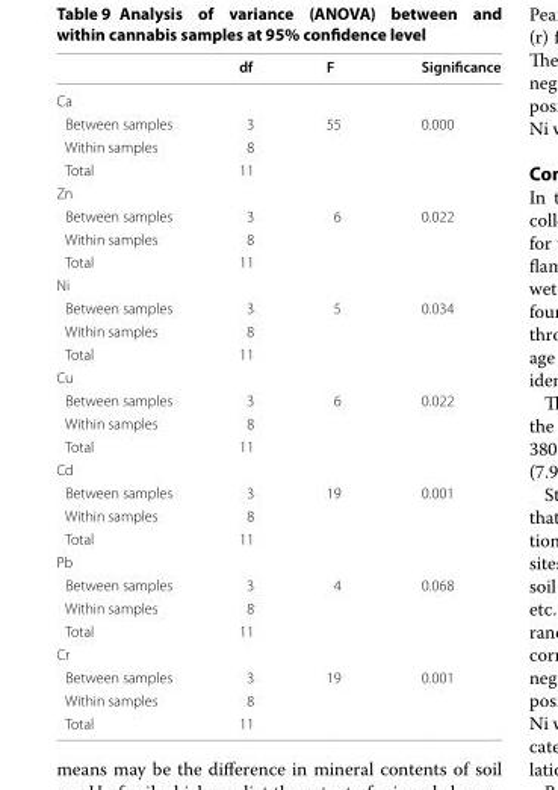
<table><thead><tr><td></td><td>df</td><td>F</td><td>Significance</td></tr></thead><tbody><tr><td colspan="4">Ca</td></tr><tr><td>Between samples</td><td>3</td><td>55</td><td>0.000</td></tr><tr><td>Within samples</td><td>8</td><td></td><td></td></tr><tr><td>Total</td><td>11</td><td></td><td></td></tr><tr><td colspan="4">Zn</td></tr><tr><td>Between samples</td><td>3</td><td>6</td><td>0.022</td></tr><tr><td>Within samples</td><td>8</td><td></td><td></td></tr><tr><td>Total</td><td>11</td><td></td><td></td></tr><tr><td colspan="4">Ni</td></tr><tr><td>Between samples</td><td>3</td><td>5</td><td>0.034</td></tr><tr><td>Within samples</td><td>8</td><td></td><td></td></tr><tr><td>Total</td><td>11</td><td></td><td></td></tr><tr><td colspan="4">Cu</td></tr><tr><td>Between samples</td><td>3</td><td>6</td><td>0.022</td></tr><tr><td>Within samples</td><td>8</td><td></td><td></td></tr><tr><td>Total</td><td>11</td><td></td><td></td></tr><tr><td colspan="4">Cd</td></tr><tr><td>Between samples</td><td>3</td><td>19</td><td>0.001</td></tr><tr><td>Within samples</td><td>8</td><td></td><td></td></tr><tr><td>Total</td><td>11</td><td></td><td></td></tr><tr><td colspan="4">Pb</td></tr><tr><td>Between samples</td><td>3</td><td>4</td><td>0.068</td></tr><tr><td>Within samples</td><td>8</td><td></td><td></td></tr><tr><td>Total</td><td>11</td><td></td><td></td></tr><tr><td colspan="4">Cr</td></tr><tr><td>Between samples</td><td>3</td><td>19</td><td>0.001</td></tr><tr><td>Within samples</td><td>8</td><td></td><td></td></tr><tr><td>Total</td><td>11</td><td></td><td></td></tr></tbody></table>